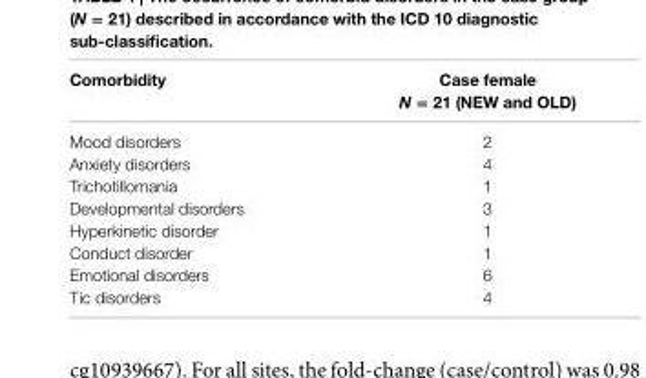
<table><thead><tr><td rowspan="2">comorbidity</td><td rowspan="2">case female N = 21 (neW and OlD)</td></tr><tr></tr></thead><tbody><tr><td>Mood disorders</td><td>2</td></tr><tr><td>Anxiety disorders</td><td>4</td></tr><tr><td>Trichotillomania</td><td>1</td></tr><tr><td>Developmental disorders</td><td>3</td></tr><tr><td>Hyperkinetic disorder</td><td>1</td></tr><tr><td>Conduct disorder</td><td>1</td></tr><tr><td>Emotional disorders</td><td>6</td></tr><tr><td>Tic disorders</td><td>4</td></tr></tbody></table>